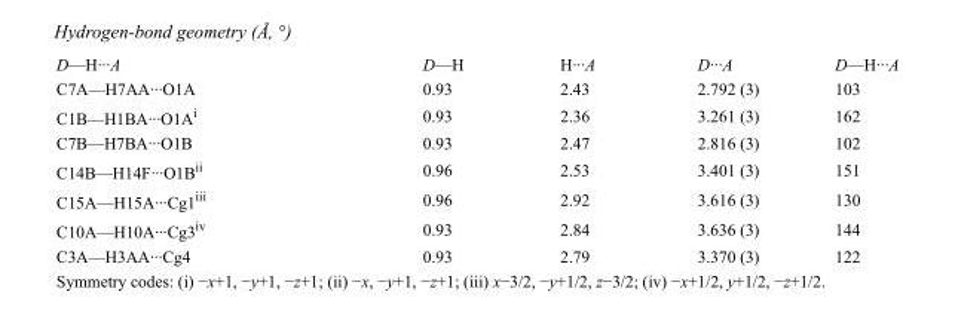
<table><tbody><tr><td>D—H···A</td><td>D—H</td><td>H···A</td><td>D···A</td><td>D—H···A</td></tr><tr><td>C7A—H7AA···O1A</td><td>0.93</td><td>2.43</td><td>2.792 (3)</td><td>103</td></tr><tr><td>C1B—H1BA···O1A<sup>i</sup></td><td>0.93</td><td>2.36</td><td>3.261 (3)</td><td>162</td></tr><tr><td>C7B—H7BA···O1B</td><td>0.93</td><td>2.47</td><td>2.816 (3)</td><td>102</td></tr><tr><td>C14B—H14F···O1B<sup>ii</sup></td><td>0.96</td><td>2.53</td><td>3.401 (3)</td><td>151</td></tr><tr><td>C15A—H15A···Cg1<sup>iii</sup></td><td>0.96</td><td>2.92</td><td>3.616 (3)</td><td>130</td></tr><tr><td>C10A—H10A···Cg3<sup>iv</sup></td><td>0.93</td><td>2.84</td><td>3.636 (3)</td><td>144</td></tr><tr><td>C3A—H3AA···Cg4</td><td>0.93</td><td>2.79</td><td>3.370 (3)</td><td>122</td></tr></tbody></table>